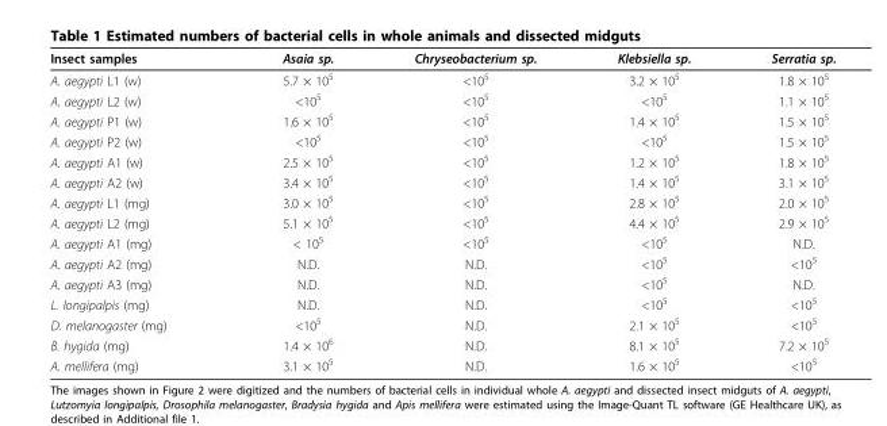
<table><thead><tr><td>Insect samples</td><td>Asaia sp.</td><td>Chryseobacterium sp.</td><td>Klebsiella sp.</td><td>Serratia sp.</td></tr></thead><tbody><tr><td>A. aegypti L1 (w)</td><td>5.7 × 10<sup>5</sup></td><td>&lt;10<sup>5</sup></td><td>3.2 × 10<sup>5</sup></td><td>1.8 × 10<sup>5</sup></td></tr><tr><td>A. aegypti L2 (w)</td><td>&lt;10<sup>5</sup></td><td>&lt;10<sup>5</sup></td><td>&lt;10<sup>5</sup></td><td>1.1 × 10<sup>5</sup></td></tr><tr><td>A. aegypti P1 (w)</td><td>1.6 × 10<sup>5</sup></td><td>&lt;10<sup>5</sup></td><td>1.4 × 10<sup>5</sup></td><td>1.5 × 10<sup>5</sup></td></tr><tr><td>A. aegypti P2 (w)</td><td>&lt;10<sup>5</sup></td><td>&lt;10<sup>5</sup></td><td>&lt;10<sup>5</sup></td><td>1.5 × 10<sup>5</sup></td></tr><tr><td>A. aegypti A1 (w)</td><td>2.5 × 10<sup>5</sup></td><td>&lt;10<sup>5</sup></td><td>1.2 × 10<sup>5</sup></td><td>1.8 × 10<sup>5</sup></td></tr><tr><td>A. aegypti A2 (w)</td><td>3.4 × 10<sup>5</sup></td><td>&lt;10<sup>5</sup></td><td>1.4 × 10<sup>5</sup></td><td>3.1 × 10<sup>5</sup></td></tr><tr><td>A. aegypti L1 (mg)</td><td>3.0 × 10<sup>5</sup></td><td>&lt;10<sup>5</sup></td><td>2.8 × 10<sup>5</sup></td><td>2.0 × 10<sup>5</sup></td></tr><tr><td>A. aegypti L2 (mg)</td><td>5.1 × 10<sup>5</sup></td><td>&lt;10<sup>5</sup></td><td>4.4 × 10<sup>5</sup></td><td>2.9 × 10<sup>5</sup></td></tr><tr><td>A. aegypti A1 (mg)</td><td>&lt; 10<sup>5</sup></td><td>&lt;10<sup>5</sup></td><td>&lt;10<sup>5</sup></td><td>N.D.</td></tr><tr><td>A. aegypti A2 (mg)</td><td>N.D.</td><td>N.D.</td><td>&lt;10<sup>5</sup></td><td>&lt;10<sup>5</sup></td></tr><tr><td>A. aegypti A3 (mg)</td><td>N.D.</td><td>N.D.</td><td>&lt;10<sup>5</sup></td><td>N.D.</td></tr><tr><td>L. longipalpis (mg)</td><td>N.D.</td><td>N.D.</td><td>&lt;10<sup>5</sup></td><td>&lt;10<sup>5</sup></td></tr><tr><td>D. melanogaster (mg)</td><td>&lt;10<sup>5</sup></td><td>N.D.</td><td>2.1 × 10<sup>5</sup></td><td>&lt;10<sup>5</sup></td></tr><tr><td>B. hygida (mg)</td><td>1.4 × 10<sup>6</sup></td><td>N.D.</td><td>8.1 × 10<sup>5</sup></td><td>7.2 × 10<sup>5</sup></td></tr><tr><td>A. mellifera (mg)</td><td>3.1 × 10<sup>5</sup></td><td>N.D.</td><td>1.6 × 10<sup>5</sup></td><td>&lt;10<sup>5</sup></td></tr></tbody></table>